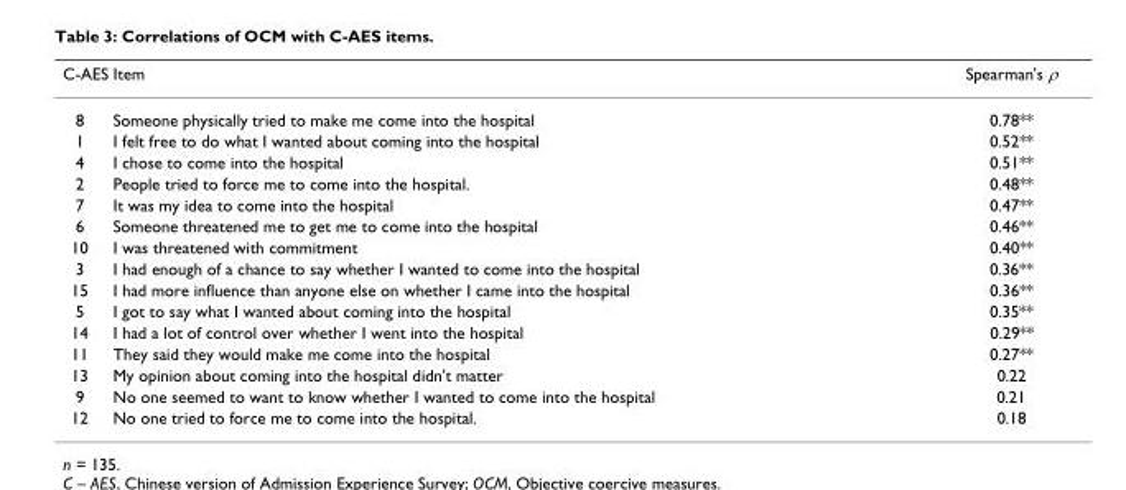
<table><thead><tr><td colspan="2">C-AES Item</td><td rowspan="2">Spearman&#x27;s ρ 0.78**</td></tr><tr><td>8</td><td>Someone physically tried to make me come into the hospital</td></tr></thead><tbody><tr><td>1</td><td>I felt free to do what I wanted about coming into the hospital</td><td>0.52**</td></tr><tr><td>4</td><td>I chose to come into the hospital</td><td>0.51**</td></tr><tr><td>2</td><td>People tried to force me to come into the hospital.</td><td>0.48**</td></tr><tr><td>7</td><td>It was my idea to come into the hospital</td><td>0.47**</td></tr><tr><td>6</td><td>Someone threatened me to get me to come into the hospital</td><td>0.46**</td></tr><tr><td>10</td><td>I was threatened with commitment</td><td>0.40**</td></tr><tr><td>3</td><td>I had enough of a chance to say whether I wanted to come into the hospital</td><td>0.36**</td></tr><tr><td>15</td><td>I had more influence than anyone else on whether I came into the hospital</td><td>0.36**</td></tr><tr><td>5</td><td>I got to say what I wanted about coming into the hospital</td><td>0.35**</td></tr><tr><td>14</td><td>I had a lot of control over whether I went into the hospital</td><td>0.29**</td></tr><tr><td>11</td><td>They said they would make me come into the hospital</td><td>0.27**</td></tr><tr><td>13</td><td>My opinion about coming into the hospital didn&#x27;t matter</td><td>0.22</td></tr><tr><td>9</td><td>No one seemed to want to know whether I wanted to come into the hospital</td><td>0.21</td></tr><tr><td>12</td><td>No one tried to force me to come into the hospital.</td><td>0.18</td></tr></tbody></table>